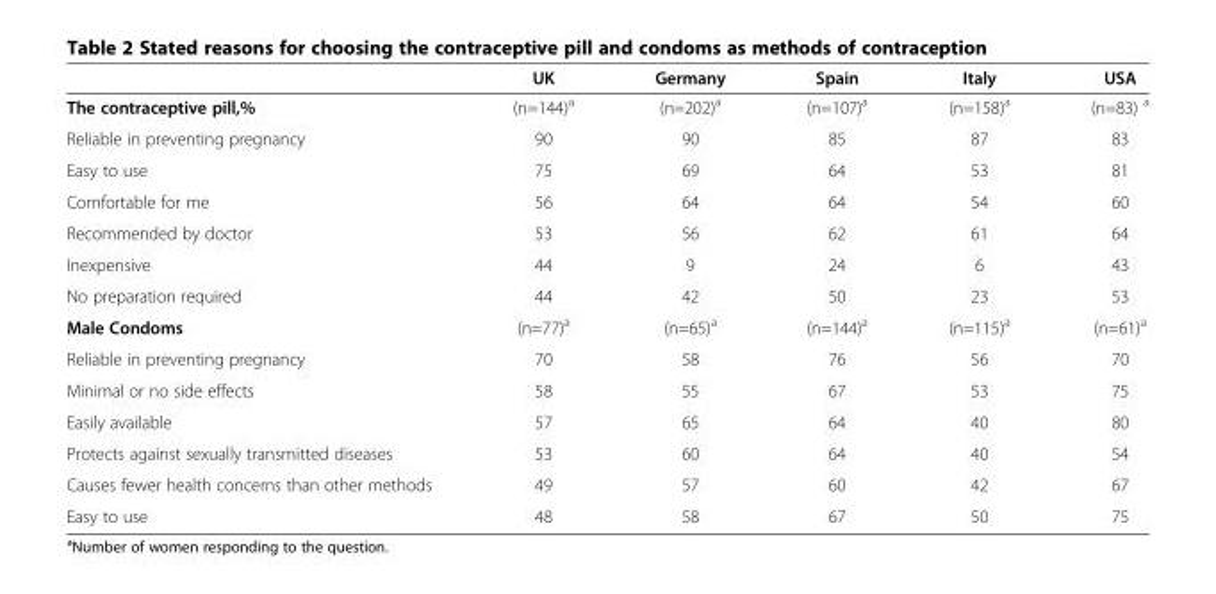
<table><thead><tr><td></td><td>UK</td><td>Germany</td><td>Spain</td><td>Italy</td><td>USA</td></tr></thead><tbody><tr><td>The contraceptive pill,%</td><td>(n=144)<sup>a</sup></td><td>(n=202)<sup>a</sup></td><td>(n=107)<sup>a</sup></td><td>(n=158)<sup>a</sup></td><td>(n=83) <sup>a</sup></td></tr><tr><td>Reliable in preventing pregnancy</td><td>90</td><td>90</td><td>85</td><td>87</td><td>83</td></tr><tr><td>Easy to use</td><td>75</td><td>69</td><td>64</td><td>53</td><td>81</td></tr><tr><td>Comfortable for me</td><td>56</td><td>64</td><td>64</td><td>54</td><td>60</td></tr><tr><td>Recommended by doctor</td><td>53</td><td>56</td><td>62</td><td>61</td><td>64</td></tr><tr><td>Inexpensive</td><td>44</td><td>9</td><td>24</td><td>6</td><td>43</td></tr><tr><td>No preparation required</td><td>44</td><td>42</td><td>50</td><td>23</td><td>53</td></tr><tr><td>Male Condoms</td><td>(n=77)<sup>a</sup></td><td>(n=65)<sup>a</sup></td><td>(n=144)<sup>a</sup></td><td>(n=115)<sup>a</sup></td><td>(n=61)<sup>a</sup></td></tr><tr><td>Reliable in preventing pregnancy</td><td>70</td><td>58</td><td>76</td><td>56</td><td>70</td></tr><tr><td>Minimal or no side effects</td><td>58</td><td>55</td><td>67</td><td>53</td><td>75</td></tr><tr><td>Easily available</td><td>57</td><td>65</td><td>64</td><td>40</td><td>80</td></tr><tr><td>Protects against sexually transmitted diseases</td><td>53</td><td>60</td><td>64</td><td>40</td><td>54</td></tr><tr><td>Causes fewer health concerns than other methods</td><td>49</td><td>57</td><td>60</td><td>42</td><td>67</td></tr><tr><td>Easy to use</td><td>48</td><td>58</td><td>67</td><td>50</td><td>75</td></tr></tbody></table>